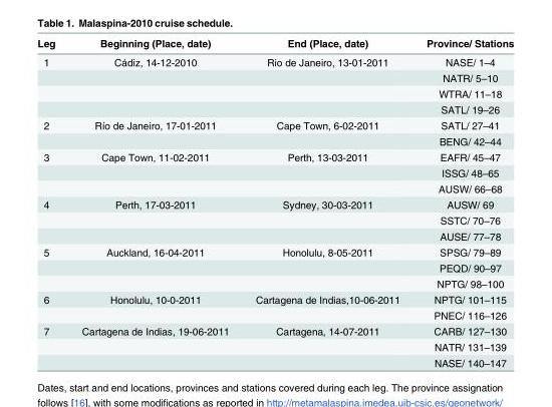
<table><thead><tr><td>Leg</td><td>Beginning (Place, date)</td><td>End (Place, date)</td><td>Province/ Stations</td></tr></thead><tbody><tr><td rowspan="4">1</td><td>Cádiz, 14-12-2010</td><td>Rio de Janeiro, 13-01-2011</td><td>NASE/ 1–4</td></tr><tr><td></td><td></td><td>NATR/ 5–10</td></tr><tr><td></td><td></td><td>WTRA/ 11–18</td></tr><tr><td></td><td></td><td>SATL/ 19–26</td></tr><tr><td rowspan="2">2</td><td>Río de Janeiro, 17-01-2011</td><td>Cape Town, 6-02-2011</td><td>SATL/ 27–41</td></tr><tr><td></td><td></td><td>BENG/ 42–44</td></tr><tr><td rowspan="3">3</td><td>Cape Town, 11-02-2011</td><td>Perth, 13-03-2011</td><td>EAFR/ 45–47</td></tr><tr><td></td><td></td><td>ISSG/ 48–65</td></tr><tr><td></td><td></td><td>AUSW/ 66–68</td></tr><tr><td rowspan="3">4</td><td>Perth, 17-03-2011</td><td>Sydney, 30-03-2011</td><td>AUSW/ 69</td></tr><tr><td></td><td></td><td>SSTC/ 70–76</td></tr><tr><td></td><td></td><td>AUSE/ 77–78</td></tr><tr><td rowspan="3">5</td><td>Auckland, 16-04-2011</td><td>Honolulu, 8-05-2011</td><td>SPSG/ 79–89</td></tr><tr><td></td><td></td><td>PEQD/ 90–97</td></tr><tr><td></td><td></td><td>NPTG/ 98–100</td></tr><tr><td rowspan="2">6</td><td>Honolulu, 10-0-2011</td><td>Cartagena de Indias,10-06-2011</td><td>NPTG/ 101–115</td></tr><tr><td></td><td></td><td>PNEC/ 116–126</td></tr><tr><td rowspan="3">7</td><td>Cartagena de Indias, 19-06-2011</td><td>Cartagena, 14-07-2011</td><td>CARB/ 127–130</td></tr><tr><td></td><td></td><td>NATR/ 131–139</td></tr><tr><td></td><td></td><td>NASE/ 140–147</td></tr></tbody></table>